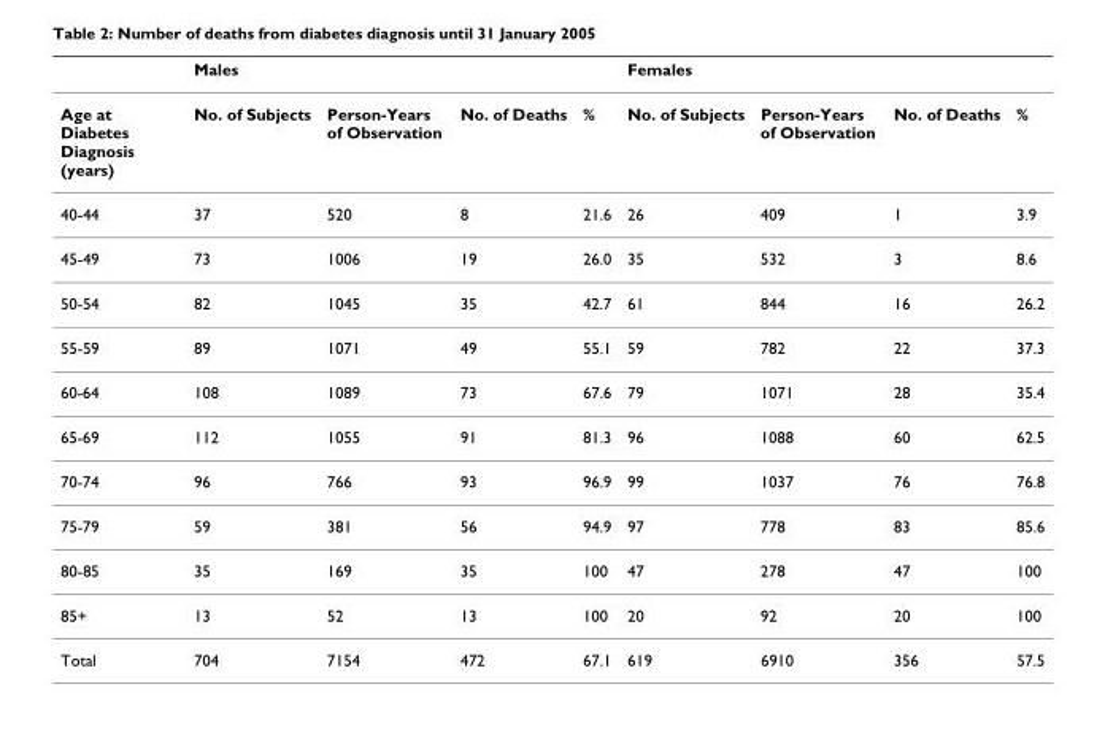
<table><thead><tr><td></td><td>Males</td><td></td><td></td><td></td><td>Females</td><td></td><td></td><td></td></tr></thead><tbody><tr><td>Age at Diabetes Diagnosis (years)</td><td>No. of Subjects</td><td>Person-Years of Observation</td><td>No. of Deaths</td><td>%</td><td>No. of Subjects</td><td>Person-Years of Observation</td><td>No. of Deaths</td><td>%</td></tr><tr><td>40-44</td><td>37</td><td>520</td><td>8</td><td>21.6</td><td>26</td><td>409</td><td>1</td><td>3.9</td></tr><tr><td>45-49</td><td>73</td><td>1006</td><td>19</td><td>26.0</td><td>35</td><td>532</td><td>3</td><td>8.6</td></tr><tr><td>50-54</td><td>82</td><td>1045</td><td>35</td><td>42.7</td><td>61</td><td>844</td><td>16</td><td>26.2</td></tr><tr><td>55-59</td><td>89</td><td>1071</td><td>49</td><td>55.1</td><td>59</td><td>782</td><td>22</td><td>37.3</td></tr><tr><td>60-64</td><td>108</td><td>1089</td><td>73</td><td>67.6</td><td>79</td><td>1071</td><td>28</td><td>35.4</td></tr><tr><td>65-69</td><td>112</td><td>1055</td><td>91</td><td>81.3</td><td>96</td><td>1088</td><td>60</td><td>62.5</td></tr><tr><td>70-74</td><td>96</td><td>766</td><td>93</td><td>96.9</td><td>99</td><td>1037</td><td>76</td><td>76.8</td></tr><tr><td>75-79</td><td>59</td><td>381</td><td>56</td><td>94.9</td><td>97</td><td>778</td><td>83</td><td>85.6</td></tr><tr><td>80-85</td><td>35</td><td>169</td><td>35</td><td>100</td><td>47</td><td>278</td><td>47</td><td>100</td></tr><tr><td>85+</td><td>13</td><td>52</td><td>13</td><td>100</td><td>20</td><td>92</td><td>20</td><td>100</td></tr><tr><td>Total</td><td>704</td><td>7154</td><td>472</td><td>67.1</td><td>619</td><td>6910</td><td>356</td><td>57.5</td></tr></tbody></table>